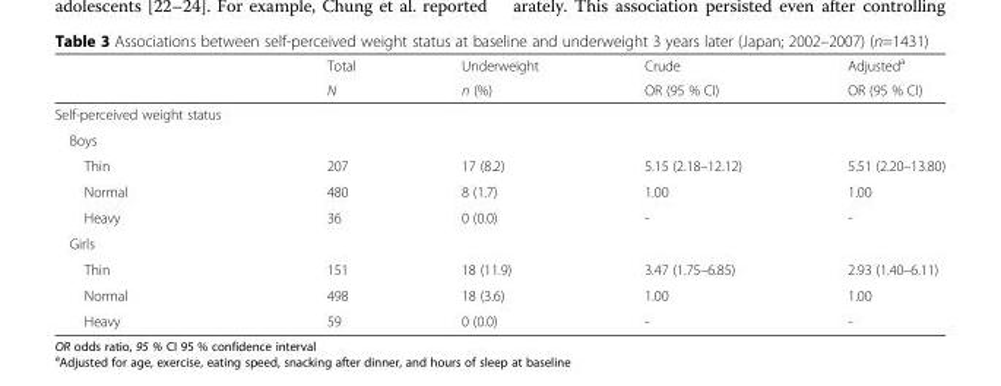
<table><thead><tr><td rowspan="2"></td><td rowspan="2">Total N</td><td rowspan="2">Underweight n (%)</td><td rowspan="2">Crude OR (95 % CI)</td><td rowspan="2">Adjusted<sup>a</sup> OR (95 % CI)</td></tr><tr></tr></thead><tbody><tr><td colspan="5">Self-perceived weight status</td></tr><tr><td colspan="5">Boys</td></tr><tr><td>Thin</td><td>207</td><td>17 (8.2)</td><td>5.15 (2.18–12.12)</td><td>5.51 (2.20–13.80)</td></tr><tr><td>Normal</td><td>480</td><td>8 (1.7)</td><td>1.00</td><td>1.00</td></tr><tr><td>Heavy</td><td>36</td><td>0 (0.0)</td><td>-</td><td>-</td></tr><tr><td colspan="5">Girls</td></tr><tr><td>Thin</td><td>151</td><td>18 (11.9)</td><td>3.47 (1.75–6.85)</td><td>2.93 (1.40–6.11)</td></tr><tr><td>Normal</td><td>498</td><td>18 (3.6)</td><td>1.00</td><td>1.00</td></tr><tr><td>Heavy</td><td>59</td><td>0 (0.0)</td><td>-</td><td>-</td></tr></tbody></table>